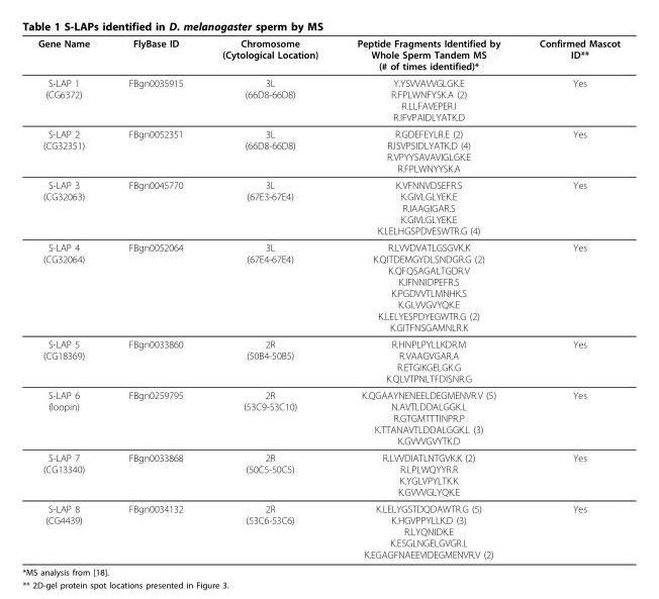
<table><thead><tr><td>Gene Name</td><td>FlyBase ID</td><td>Chromosome (Cytological Location)</td><td>Peptide Fragments Identified by Whole Sperm Tandem MS (# of times identified)*</td><td>Confirmed Mascot ID**</td></tr></thead><tbody><tr><td>S-LAP 1 (CG6372)</td><td>FBgn0035915</td><td>3L (66D8-66D8)</td><td>Y.YSVVAVVGLGK.E R.FPLWNFYSK.A (2) R.LLFAVEPER.I R.IFVPAIDLYATK.D</td><td>Yes</td></tr><tr><td>S-LAP 2 (CG32351)</td><td>FBgn0052351</td><td>3L (66D8-66D8)</td><td>R.GDEFEYLR.E (2) R.ISVPSIDLYATK.D (4) R.VPYYSAVAVIGLGK.E R.FPLWNYYSK.A</td><td>Yes</td></tr><tr><td>S-LAP 3 (CG32063)</td><td>FBgn0045770</td><td>3L (67E3-67E4)</td><td>K.VFNNVDSEFR.S K.GIVLGLYEK.E R.IAAGIGAR.S K.GIVLGLYEK.E K.LELHGSPDVESWTR.G (4)</td><td>Yes</td></tr><tr><td>S-LAP 4 (CG32064)</td><td>FBgn0052064</td><td>3L (67E4-67E4)</td><td>R.LVVDVATLGSGVK.K K.QITDEMGYDLSNDGR.G (2) K.QFQSAGALTGDR.V K.IFNNIDPEFR.S K.PGDVVTLMNHK.S K.GLVVGVYQK.E K.LELYESPDYEGWTR.G (2) K.GITFNSGAMNLR.K</td><td>Yes</td></tr><tr><td>S-LAP 5 (CG18369)</td><td>FBgn0033860</td><td>2R (50B4-50B5)</td><td>R.HNPLPYLLKDR.M R.VAAGVGAR.A R.ETGIKGELGK.G K.QLVTPNLTFDISNR.G</td><td>Yes</td></tr><tr><td>S-LAP 6 (loopin)</td><td>FBgn0259795</td><td>2R (53C9-53C10)</td><td>K.QGAAYNENEELDEGMENVR.V (5) N.AVTLDDALGGK.L R.GTGMTTTINPR.P K.TTANAVTLDDALGGK.L (3) K.GVVVGVYTK.D</td><td>Yes</td></tr><tr><td>S-LAP 7 (CG13340)</td><td>FBgn0033868</td><td>2R (50C5-50C5)</td><td>R.LVVDIATLNTGVK.K (2) R.LPLWQYYR.R K.YGLVPYLTK.K K.GVVVGLYQK.E</td><td>Yes</td></tr><tr><td>S-LAP 8 (CG4439)</td><td>FBgn0034132</td><td>2R (53C6-53C6)</td><td>K.LELYGSTDQDAWTR.G (5) K.HGVPPYLLK.D (3) R.LYQNIDK.E K.ESGLNGELGVGR.L K.EGAGFNAEEVIDEGMENVR.V (2)</td><td>Yes</td></tr></tbody></table>